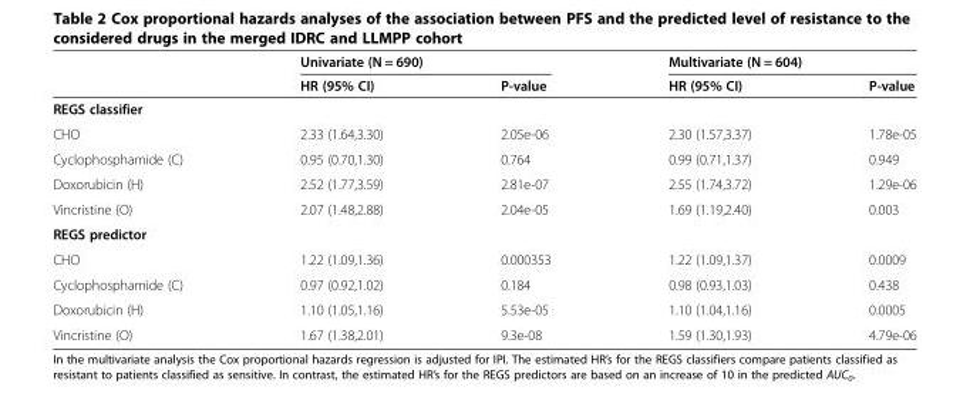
<table><thead><tr><td rowspan="2"></td><td colspan="2">Univariate (N = 690)</td><td colspan="2">Multivariate (N = 604)</td></tr><tr><td>HR (95% CI)</td><td>P-value</td><td>HR (95% CI)</td><td>P-value</td></tr></thead><tbody><tr><td colspan="5">REGS classifier</td></tr><tr><td>CHO</td><td>2.33 (1.64,3.30)</td><td>2.05e-06</td><td>2.30 (1.57,3.37)</td><td>1.78e-05</td></tr><tr><td>Cyclophosphamide (C)</td><td>0.95 (0.70,1.30)</td><td>0.764</td><td>0.99 (0.71,1.37)</td><td>0.949</td></tr><tr><td>Doxorubicin (H)</td><td>2.52 (1.77,3.59)</td><td>2.81e-07</td><td>2.55 (1.74,3.72)</td><td>1.29e-06</td></tr><tr><td>Vincristine (O)</td><td>2.07 (1.48,2.88)</td><td>2.04e-05</td><td>1.69 (1.19,2.40)</td><td>0.003</td></tr><tr><td colspan="5">REGS predictor</td></tr><tr><td>CHO</td><td>1.22 (1.09,1.36)</td><td>0.000353</td><td>1.22 (1.09,1.37)</td><td>0.0009</td></tr><tr><td>Cyclophosphamide (C)</td><td>0.97 (0.92,1.02)</td><td>0.184</td><td>0.98 (0.93,1.03)</td><td>0.438</td></tr><tr><td>Doxorubicin (H)</td><td>1.10 (1.05,1.16)</td><td>5.53e-05</td><td>1.10 (1.04,1.16)</td><td>0.0005</td></tr><tr><td>Vincristine (O)</td><td>1.67 (1.38,2.01)</td><td>9.3e-08</td><td>1.59 (1.30,1.93)</td><td>4.79e-06</td></tr></tbody></table>